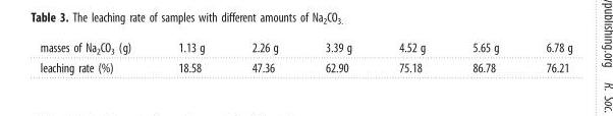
<table><tbody><tr><td>masses of Na<sub>2</sub>CO<sub>3</sub> (g)</td><td>1.13 g</td><td>2.26 g</td><td>3.39 g</td><td>4.52 g</td><td>5.65 g</td><td>6.78 g</td></tr><tr><td>leaching rate (%)</td><td>18.58</td><td>47.36</td><td>62.90</td><td>75.18</td><td>86.78</td><td>76.21</td></tr></tbody></table>